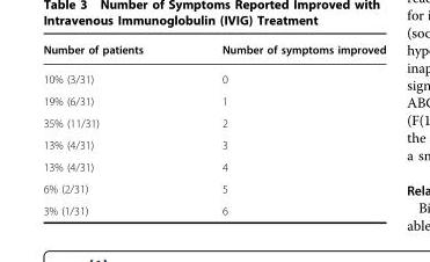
<table><thead><tr><td>Number of patients</td><td>Number of symptoms improved</td></tr></thead><tbody><tr><td>10% (3/31)</td><td>0</td></tr><tr><td>19% (6/31)</td><td>1</td></tr><tr><td>35% (11/31)</td><td>2</td></tr><tr><td>13% (4/31)</td><td>3</td></tr><tr><td>13% (4/31)</td><td>4</td></tr><tr><td>6% (2/31)</td><td>5</td></tr><tr><td>3% (1/31)</td><td>6</td></tr></tbody></table>